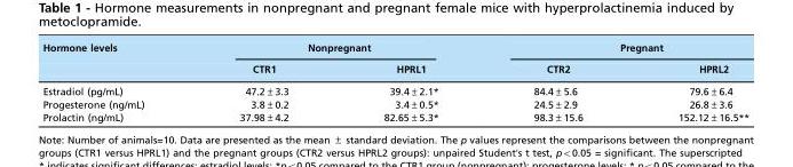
<table><thead><tr><td rowspan="2">Hormone levels</td><td colspan="2">Nonpregnant</td><td colspan="2">Pregnant</td></tr><tr><td>CTR1</td><td>HPRL1</td><td>CTR2</td><td>HPRL2</td></tr></thead><tbody><tr><td>Estradiol (pg/mL)</td><td>47.2±3.3</td><td>39.4±2.1*</td><td>84.4±5.6</td><td>79.6±6.4</td></tr><tr><td>Progesterone (ng/mL)</td><td>3.8±0.2</td><td>3.4±0.5*</td><td>24.5±2.9</td><td>26.8±3.6</td></tr><tr><td>Prolactin (ng/mL)</td><td>37.98±4.2</td><td>82.65±5.3*</td><td>98.3±15.6</td><td>152.12±16.5**</td></tr></tbody></table>